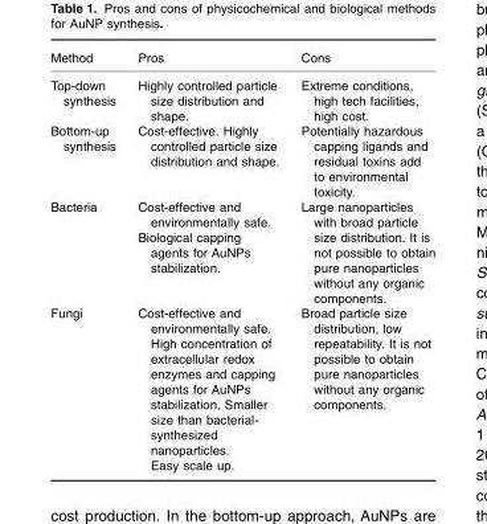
<table><thead><tr><td>Method</td><td>Pros</td><td>Cons</td></tr></thead><tbody><tr><td>Top-down synthesis</td><td>Highly controlled particle size distribution and shape.</td><td>Extreme conditions, high tech facilities, high cost.</td></tr><tr><td>Bottom-up synthesis</td><td>Cost-effective. Highly controlled particle size distribution and shape.</td><td>Potentially hazardous capping ligands and residual toxins add to environmental toxicity.</td></tr><tr><td>Bacteria</td><td>Cost-effective and environmentally safe. Biological capping agents for AuNPs stabilization.</td><td>Large nanoparticles with broad particle size distribution. It is not possible to obtain pure nanoparticles without any organic components.</td></tr><tr><td>Fungi</td><td>Cost-effective and environmentally safe. High concentration of extracellular redox enzymes and capping agents for AuNPs stabilization. Smaller size than bacterial- synthesized nanoparticles. Easy scale up.</td><td>Broad particle size distribution, low repeatability. It is not possible to obtain pure nanoparticles without any organic components.</td></tr></tbody></table>